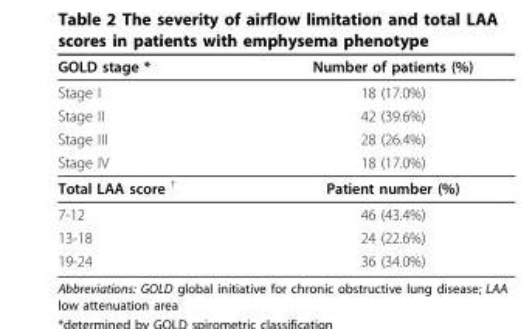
<table><thead><tr><td>GOLD stage *</td><td>Number of patients (%)</td></tr></thead><tbody><tr><td>Stage I</td><td>18 (17.0%)</td></tr><tr><td>Stage II</td><td>42 (39.6%)</td></tr><tr><td>Stage III</td><td>28 (26.4%)</td></tr><tr><td>Stage IV</td><td>18 (17.0%)</td></tr><tr><td>Total LAA score <sup>†</sup></td><td>Patient number (%)</td></tr><tr><td>7-12</td><td>46 (43.4%)</td></tr><tr><td>13-18</td><td>24 (22.6%)</td></tr><tr><td>19-24</td><td>36 (34.0%)</td></tr></tbody></table>